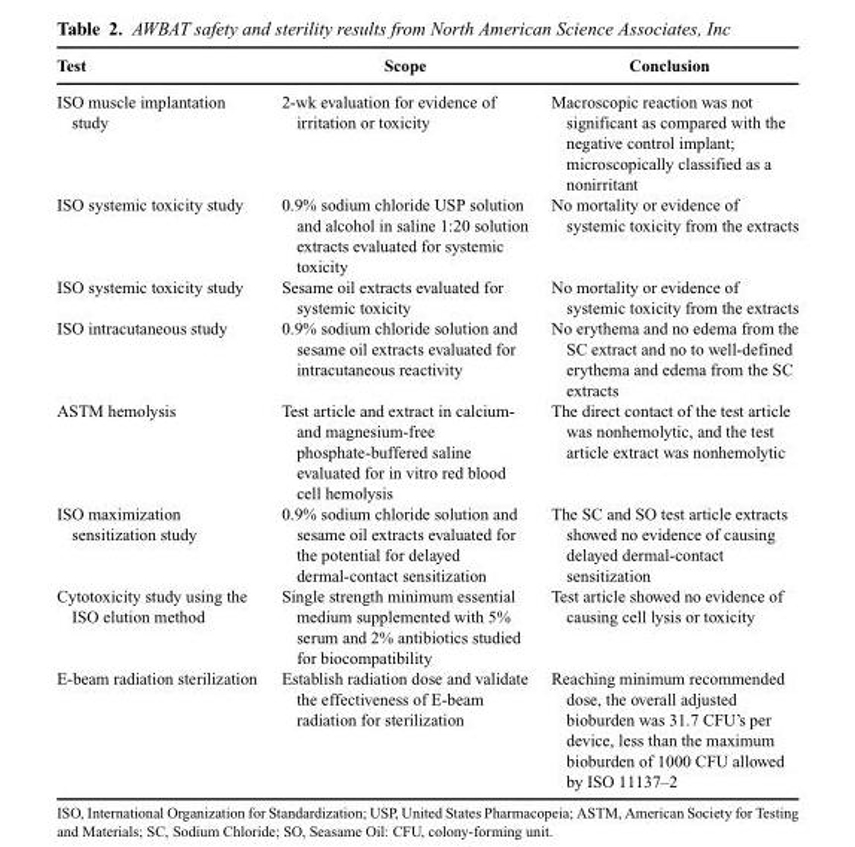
<table><thead><tr><td>Test</td><td>Scope</td><td>Conclusion</td></tr></thead><tbody><tr><td>ISO muscle implantation study</td><td>2-wk evaluation for evidence of irritation or toxicity</td><td>Macroscopic reaction was not significant as compared with the negative control implant; microscopically classified as a nonirritant</td></tr><tr><td>ISO systemic toxicity study</td><td>0.9% sodium chloride USP solution and alcohol in saline 1:20 solution extracts evaluated for systemic toxicity</td><td>No mortality or evidence of systemic toxicity from the extracts</td></tr><tr><td>ISO systemic toxicity study</td><td>Sesame oil extracts evaluated for systemic toxicity</td><td>No mortality or evidence of systemic toxicity from the extracts</td></tr><tr><td>ISO intracutaneous study</td><td>0.9% sodium chloride solution and sesame oil extracts evaluated for intracutaneous reactivity</td><td>No erythema and no edema from the SC extract and no to well-defined erythema and edema from the SC extracts</td></tr><tr><td>ASTM hemolysis</td><td>Test article and extract in calcium- and magnesium-free phosphate-buffered saline evaluated for in vitro red blood cell hemolysis</td><td>The direct contact of the test article was nonhemolytic, and the test article extract was nonhemolytic</td></tr><tr><td>ISO maximization sensitization study</td><td>0.9% sodium chloride solution and sesame oil extracts evaluated for the potential for delayed dermal-contact sensitization</td><td>The SC and SO test article extracts showed no evidence of causing delayed dermal-contact sensitization</td></tr><tr><td>Cytotoxicity study using the ISO elution method</td><td>Single strength minimum essential medium supplemented with 5% serum and 2% antibiotics studied for biocompatibility</td><td>Test article showed no evidence of causing cell lysis or toxicity</td></tr><tr><td>E-beam radiation sterilization</td><td>Establish radiation dose and validate the effectiveness of E-beam radiation for sterilization</td><td>Reaching minimum recommended dose, the overall adjusted bioburden was 31.7 CFU’s per device, less than the maximum bioburden of 1000 CFU allowed by ISO 11137–2</td></tr></tbody></table>